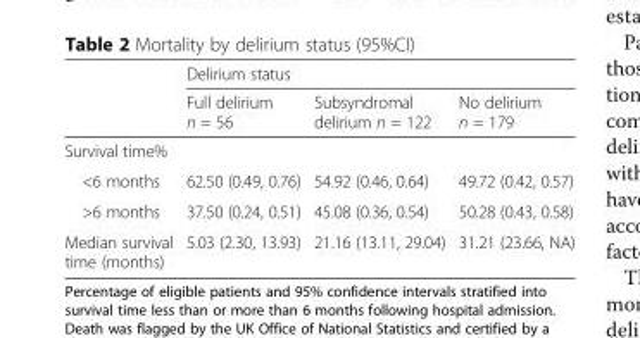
<table><thead><tr><td rowspan="2"></td><td colspan="3">Delirium status</td></tr><tr><td>Full delirium n = 56</td><td>Subsyndromal delirium n = 122</td><td>No delirium n = 179</td></tr></thead><tbody><tr><td colspan="4">Survival time%</td></tr><tr><td>&lt;6 months</td><td>62.50 (0.49, 0.76)</td><td>54.92 (0.46, 0.64)</td><td>49.72 (0.42, 0.57)</td></tr><tr><td>&gt;6 months</td><td>37.50 (0.24, 0.51)</td><td>45.08 (0.36, 0.54)</td><td>50.28 (0.43, 0.58)</td></tr><tr><td>Median survival time (months)</td><td>5.03 (2.30, 13.93)</td><td>21.16 (13.11, 29.04)</td><td>31.21 (23.66, NA)</td></tr></tbody></table>